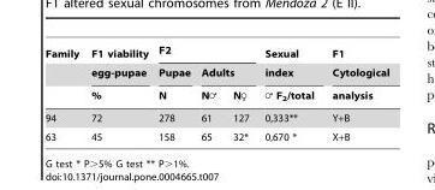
<table><thead><tr><td rowspan="3">Family</td><td rowspan="3">F1 viability egg-pupae %</td><td colspan="3">F2</td><td rowspan="3">Sexual index = F2/total</td><td rowspan="3">F1 Cytological analysis</td></tr><tr><td rowspan="2">Pupae N</td><td colspan="2">Adults</td></tr><tr><td>N=</td><td>N♀</td></tr></thead><tbody><tr><td>94</td><td>72</td><td>278</td><td>61</td><td>127</td><td>0,333**</td><td>Y+B</td></tr><tr><td>63</td><td>45</td><td>158</td><td>65</td><td>32*</td><td>0,670 *</td><td>X+B</td></tr></tbody></table>